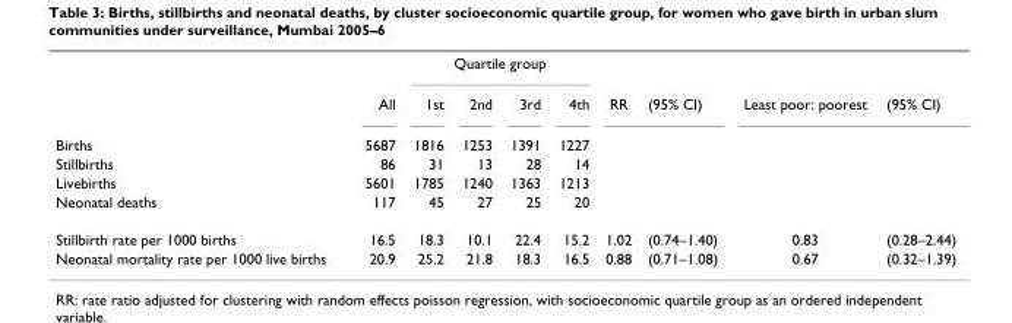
<table><thead><tr><td rowspan="2"></td><td rowspan="2">All</td><td colspan="4">Quartile group</td><td rowspan="2">RR</td><td rowspan="2">(95% CI)</td><td rowspan="2">Least poor: poorest</td><td rowspan="2">(95% CI)</td></tr><tr><td>1st</td><td>2nd</td><td>3rd</td><td>4th</td></tr></thead><tbody><tr><td>Births</td><td>5687</td><td>1816</td><td>1253</td><td>1391</td><td>1227</td><td></td><td></td><td></td><td></td></tr><tr><td>Stillbirths</td><td>86</td><td>31</td><td>13</td><td>28</td><td>14</td><td></td><td></td><td></td><td></td></tr><tr><td>Livebirths</td><td>5601</td><td>1785</td><td>1240</td><td>1363</td><td>1213</td><td></td><td></td><td></td><td></td></tr><tr><td>Neonatal deaths</td><td>117</td><td>45</td><td>27</td><td>25</td><td>20</td><td></td><td></td><td></td><td></td></tr><tr><td>Stillbirth rate per 1000 births</td><td>16.5</td><td>18.3</td><td>10.1</td><td>22.4</td><td>15.2</td><td>1.02</td><td>(0.74–1.40)</td><td>0.83</td><td>(0.28–2.44)</td></tr><tr><td>Neonatal mortality rate per 1000 live births</td><td>20.9</td><td>25.2</td><td>21.8</td><td>18.3</td><td>16.5</td><td>0.88</td><td>(0.71–1.08)</td><td>0.67</td><td>(0.32–1.39)</td></tr></tbody></table>